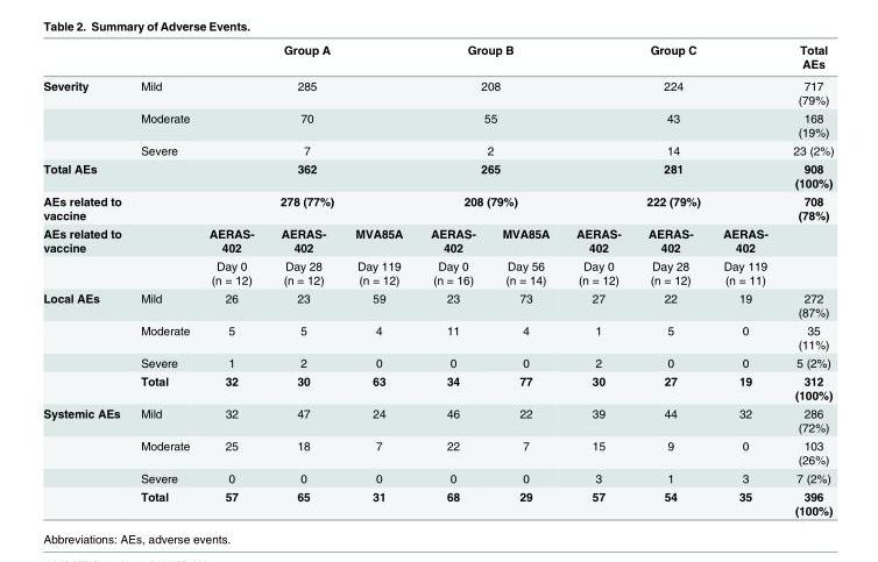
<table><thead><tr><td></td><td></td><td colspan="3">Group A</td><td colspan="2">Group B</td><td colspan="3">Group C</td><td>Total AEs</td></tr></thead><tbody><tr><td rowspan="3">Severity</td><td>Mild</td><td colspan="3">285</td><td colspan="2">208</td><td colspan="3">224</td><td>717 (79%)</td></tr><tr><td>Moderate</td><td colspan="3">70</td><td colspan="2">55</td><td colspan="3">43</td><td>168 (19%)</td></tr><tr><td>Severe</td><td colspan="3">7</td><td colspan="2">2</td><td colspan="3">14</td><td>23 (2%)</td></tr><tr><td>Total AEs</td><td></td><td colspan="3">362</td><td colspan="2">265</td><td colspan="3">281</td><td>908 (100%)</td></tr><tr><td>AEs related to vaccine</td><td></td><td colspan="3">278 (77%)</td><td colspan="2">208 (79%)</td><td colspan="3">222 (79%)</td><td>708 (78%)</td></tr><tr><td rowspan="2">AEs related to vaccine</td><td></td><td>AERAS- 402</td><td>AERAS- 402</td><td>MVA85A</td><td>AERAS- 402</td><td>MVA85A</td><td>AERAS- 402</td><td>AERAS- 402</td><td>AERAS- 402</td><td></td></tr><tr><td></td><td>Day 0 (n = 12)</td><td>Day 28 (n = 12)</td><td>Day 119 (n = 12)</td><td>Day 0 (n = 16)</td><td>Day 56 (n = 14)</td><td>Day 0 (n = 12)</td><td>Day 28 (n = 12)</td><td>Day 119 (n = 11)</td><td></td></tr><tr><td rowspan="4">Local AEs</td><td>Mild</td><td>26</td><td>23</td><td>59</td><td>23</td><td>73</td><td>27</td><td>22</td><td>19</td><td>272 (87%)</td></tr><tr><td>Moderate</td><td>5</td><td>5</td><td>4</td><td>11</td><td>4</td><td>1</td><td>5</td><td>0</td><td>35 (11%)</td></tr><tr><td>Severe</td><td>1</td><td>2</td><td>0</td><td>0</td><td>0</td><td>2</td><td>0</td><td>0</td><td>5 (2%)</td></tr><tr><td>Total</td><td>32</td><td>30</td><td>63</td><td>34</td><td>77</td><td>30</td><td>27</td><td>19</td><td>312 (100%)</td></tr><tr><td rowspan="4">Systemic AEs</td><td>Mild</td><td>32</td><td>47</td><td>24</td><td>46</td><td>22</td><td>39</td><td>44</td><td>32</td><td>286 (72%)</td></tr><tr><td>Moderate</td><td>25</td><td>18</td><td>7</td><td>22</td><td>7</td><td>15</td><td>9</td><td>0</td><td>103 (26%)</td></tr><tr><td>Severe</td><td>0</td><td>0</td><td>0</td><td>0</td><td>0</td><td>3</td><td>1</td><td>3</td><td>7 (2%)</td></tr><tr><td>Total</td><td>57</td><td>65</td><td>31</td><td>68</td><td>29</td><td>57</td><td>54</td><td>35</td><td>396 (100%)</td></tr></tbody></table>